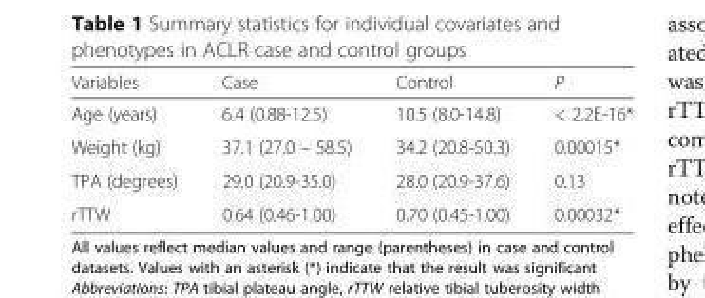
<table><thead><tr><td>Variables</td><td>Case</td><td>Control</td><td>P</td></tr></thead><tbody><tr><td>Age (years)</td><td>6.4 (0.88-12.5)</td><td>10.5 (8.0-14.8)</td><td>&lt; 2.2E-16*</td></tr><tr><td>Weight (kg)</td><td>37.1 (27.0 – 58.5)</td><td>34.2 (20.8-50.3)</td><td>0.00015*</td></tr><tr><td>TPA (degrees)</td><td>29.0 (20.9-35.0)</td><td>28.0 (20.9-37.6)</td><td>0.13</td></tr><tr><td>rTTW</td><td>0.64 (0.46-1.00)</td><td>0.70 (0.45-1.00)</td><td>0.00032*</td></tr></tbody></table>